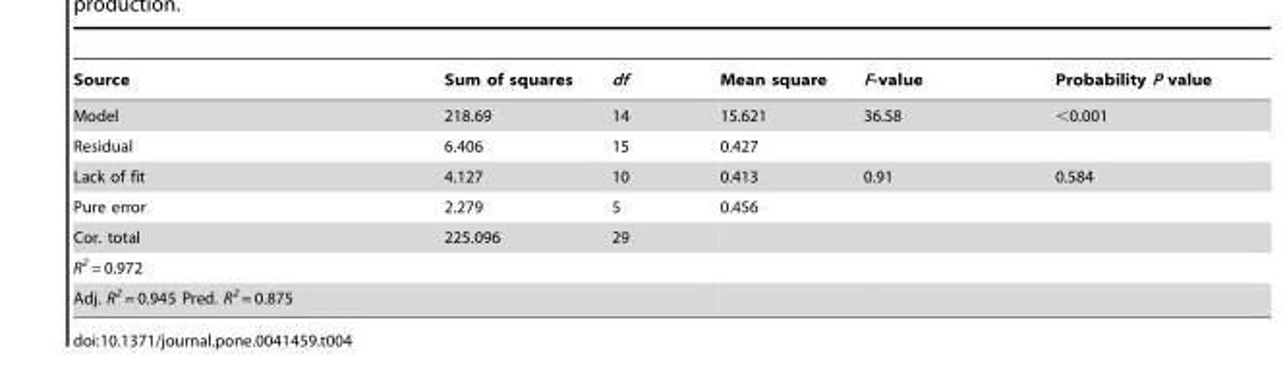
<table><thead><tr><td>Source</td><td>Sum of squares</td><td>df</td><td>Mean square</td><td>F-value</td><td>Probability P value</td></tr></thead><tbody><tr><td>Model</td><td>218.69</td><td>14</td><td>15.621</td><td>36.58</td><td>&lt;0.001</td></tr><tr><td>Residual</td><td>6.406</td><td>15</td><td>0.427</td><td></td><td></td></tr><tr><td>Lack of fit</td><td>4.127</td><td>10</td><td>0.413</td><td>0.91</td><td>0.584</td></tr><tr><td>Pure error</td><td>2.279</td><td>5</td><td>0.456</td><td></td><td></td></tr><tr><td>Cor. total</td><td>225.096</td><td>29</td><td></td><td></td><td></td></tr><tr><td colspan="6">R<sup>2</sup> = 0.972</td></tr><tr><td>Adj. R<sup>2</sup> = 0.945 Pred. R<sup>2</sup> = 0.875</td><td></td><td></td><td></td><td></td><td></td></tr></tbody></table>